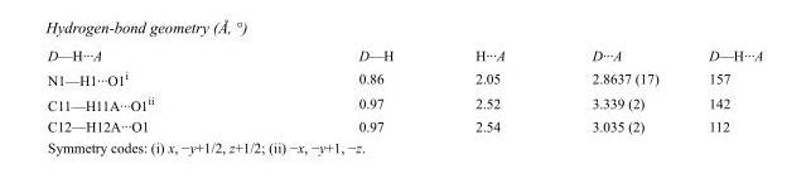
<table><tbody><tr><td>D—H···A</td><td>D—H</td><td>H···A</td><td>D···A</td><td>D—H···A</td></tr><tr><td>N1—H1···O1<sup>i</sup></td><td>0.86</td><td>2.05</td><td>2.8637 (17)</td><td>157</td></tr><tr><td>C11—H11A···O1<sup>ii</sup></td><td>0.97</td><td>2.52</td><td>3.339 (2)</td><td>142</td></tr><tr><td>C12—H12A···O1</td><td>0.97</td><td>2.54</td><td>3.035 (2)</td><td>112</td></tr></tbody></table>